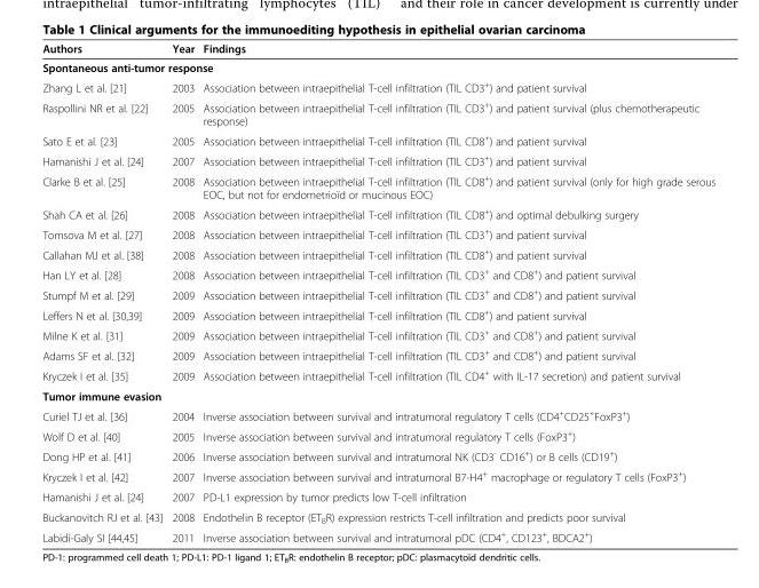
<table><thead><tr><td>Authors</td><td>Year</td><td>Findings</td></tr></thead><tbody><tr><td colspan="3">Spontaneous anti-tumor response</td></tr><tr><td>Zhang L et al. [21]</td><td>2003</td><td>Association between intraepithelial T-cell infiltration (TIL CD3<sup>+</sup>) and patient survival</td></tr><tr><td>Raspollini NR et al. [22]</td><td>2005</td><td>Association between intraepithelial T-cell infiltration (TIL CD3<sup>+</sup>) and patient survival (plus chemotherapeutic response)</td></tr><tr><td>Sato E et al. [23]</td><td>2005</td><td>Association between intraepithelial T-cell infiltration (TIL CD8<sup>+</sup>) and patient survival</td></tr><tr><td>Hamanishi J et al. [24]</td><td>2007</td><td>Association between intraepithelial T-cell infiltration (TIL CD3<sup>+</sup>) and patient survival</td></tr><tr><td>Clarke B et al. [25]</td><td>2008</td><td>Association between intraepithelial T-cell infiltration (TIL CD8<sup>+</sup>) and patient survival (only for high grade serous EOC, but not for endometrioïd or mucinous EOC)</td></tr><tr><td>Shah CA et al. [26]</td><td>2008</td><td>Association between intraepithelial T-cell infiltration (TIL CD8<sup>+</sup>) and optimal debulking surgery</td></tr><tr><td>Tomsova M et al. [27]</td><td>2008</td><td>Association between intraepithelial T-cell infiltration (TIL CD3<sup>+</sup>) and patient survival</td></tr><tr><td>Callahan MJ et al. [38]</td><td>2008</td><td>Association between intraepithelial T-cell infiltration (TIL CD8<sup>+</sup>) and patient survival</td></tr><tr><td>Han LY et al. [28]</td><td>2008</td><td>Association between intraepithelial T-cell infiltration (TIL CD3<sup>+</sup> and CD8<sup>+</sup>) and patient survival</td></tr><tr><td>Stumpf M et al. [29]</td><td>2009</td><td>Association between intraepithelial T-cell infiltration (TIL CD3<sup>+</sup> and CD8<sup>+</sup>) and patient survival</td></tr><tr><td>Leffers N et al. [30,39]</td><td>2009</td><td>Association between intraepithelial T-cell infiltration (TIL CD8<sup>+</sup>) and patient survival</td></tr><tr><td>Milne K et al. [31]</td><td>2009</td><td>Association between intraepithelial T-cell infiltration (TIL CD3<sup>+</sup> and CD8<sup>+</sup>) and patient survival</td></tr><tr><td>Adams SF et al. [32]</td><td>2009</td><td>Association between intraepithelial T-cell infiltration (TIL CD3<sup>+</sup> and CD8<sup>+</sup>) and patient survival</td></tr><tr><td>Kryczek I et al. [35]</td><td>2009</td><td>Association between intraepithelial T-cell infiltration (TIL CD4<sup>+</sup> with IL-17 secretion) and patient survival</td></tr><tr><td colspan="3">Tumor immune evasion</td></tr><tr><td>Curiel TJ et al. [36]</td><td>2004</td><td>Inverse association between survival and intratumoral regulatory T cells (CD4<sup>+</sup>CD25<sup>+</sup>FoxP3<sup>+</sup>)</td></tr><tr><td>Wolf D et al. [40]</td><td>2005</td><td>Inverse association between survival and intratumoral regulatory T cells (FoxP3<sup>+</sup>)</td></tr><tr><td>Dong HP et al. [41]</td><td>2006</td><td>Inverse association between survival and intratumoral NK (CD3<sup>-</sup> CD16<sup>+</sup>) or B cells (CD19<sup>+</sup>)</td></tr><tr><td>Kryczek I et al. [42]</td><td>2007</td><td>Inverse association between survival and intratumoral B7-H4<sup>+</sup> macrophage or regulatory T cells (FoxP3<sup>+</sup>)</td></tr><tr><td>Hamanishi J et al. [24]</td><td>2007</td><td>PD-L1 expression by tumor predicts low T-cell infiltration</td></tr><tr><td>Buckanovitch RJ et al. [43]</td><td>2008</td><td>Endothelin B receptor (ET<sub>B</sub>R) expression restricts T-cell infiltration and predicts poor survival</td></tr><tr><td>Labidi-Galy SI [44,45]</td><td>2011</td><td>Inverse association between survival and intratumoral pDC (CD4<sup>+</sup>, CD123<sup>+</sup>, BDCA2<sup>+</sup>)</td></tr></tbody></table>